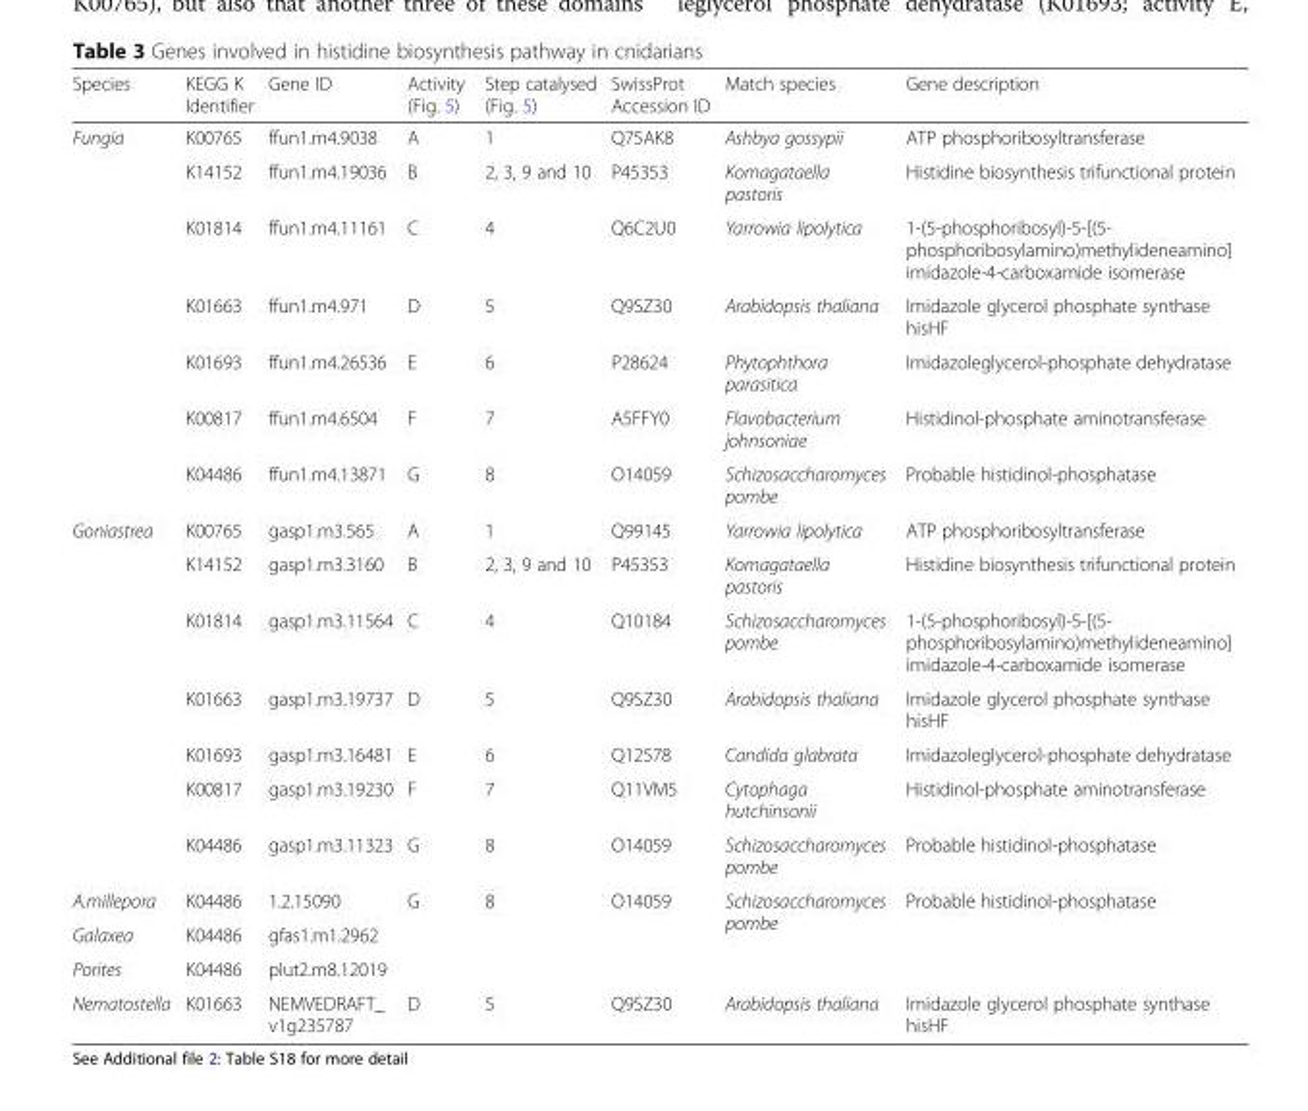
<table><thead><tr><td>Species</td><td>KEGG K Identifier</td><td>Gene ID</td><td>Activity (Fig. 5)</td><td>Step catalysed (Fig. 5)</td><td>SwissProt Accession ID</td><td>Match species</td><td>Gene description</td></tr></thead><tbody><tr><td rowspan="7">Fungia</td><td>K00765</td><td>ffun1.m4.9038</td><td>A</td><td>1</td><td>Q75AK8</td><td>Ashbya gossypii</td><td>ATP phosphoribosyltransferase</td></tr><tr><td>K14152</td><td>ffun1.m4.19036</td><td>B</td><td>2, 3, 9 and 10</td><td>P45353</td><td>Komagataella pastoris</td><td>Histidine biosynthesis trifunctional protein</td></tr><tr><td>K01814</td><td>ffun1.m4.11161</td><td>C</td><td>4</td><td>Q6C2U0</td><td>Yarrowia lipolytica</td><td>1-(5-phosphoribosyl)-5-[(5- phosphoribosylamino)methylideneamino] imidazole-4-carboxamide isomerase</td></tr><tr><td>K01663</td><td>ffun1.m4.971</td><td>D</td><td>5</td><td>Q9SZ30</td><td>Arabidopsis thaliana</td><td>Imidazole glycerol phosphate synthase hisHF</td></tr><tr><td>K01693</td><td>ffun1.m4.26536</td><td>E</td><td>6</td><td>P28624</td><td>Phytophthora parasitica</td><td>Imidazoleglycerol-phosphate dehydratase</td></tr><tr><td>K00817</td><td>ffun1.m4.6504</td><td>F</td><td>7</td><td>A5FFY0</td><td>Flavobacterium johnsoniae</td><td>Histidinol-phosphate aminotransferase</td></tr><tr><td>K04486</td><td>ffun1.m4.13871</td><td>G</td><td>8</td><td>O14059</td><td>Schizosaccharomyces pombe</td><td>Probable histidinol-phosphatase</td></tr><tr><td rowspan="7">Goniastrea</td><td>K00765</td><td>gasp1.m3.565</td><td>A</td><td>1</td><td>Q99145</td><td>Yarrowia lipolytica</td><td>ATP phosphoribosyltransferase</td></tr><tr><td>K14152</td><td>gasp1.m3.3160</td><td>B</td><td>2, 3, 9 and 10</td><td>P45353</td><td>Komagataella pastoris</td><td>Histidine biosynthesis trifunctional protein</td></tr><tr><td>K01814</td><td>gasp1.m3.11564</td><td>C</td><td>4</td><td>Q10184</td><td>Schizosaccharomyces pombe</td><td>1-(5-phosphoribosyl)-5-[(5- phosphoribosylamino)methylideneamino] imidazole-4-carboxamide isomerase</td></tr><tr><td>K01663</td><td>gasp1.m3.19737</td><td>D</td><td>5</td><td>Q9SZ30</td><td>Arabidopsis thaliana</td><td>Imidazole glycerol phosphate synthase hisHF</td></tr><tr><td>K01693</td><td>gasp1.m3.16481</td><td>E</td><td>6</td><td>Q12578</td><td>Candida glabrata</td><td>Imidazoleglycerol-phosphate dehydratase</td></tr><tr><td>K00817</td><td>gasp1.m3.19230</td><td>F</td><td>7</td><td>Q11VM5</td><td>Cytophaga hutchinsonii</td><td>Histidinol-phosphate aminotransferase</td></tr><tr><td>K04486</td><td>gasp1.m3.11323</td><td>G</td><td>8</td><td>O14059</td><td>Schizosaccharomyces pombe</td><td>Probable histidinol-phosphatase</td></tr><tr><td>A.millepora</td><td>K04486</td><td>1.2.15090</td><td rowspan="3">G</td><td rowspan="3">8</td><td rowspan="3">O14059</td><td rowspan="3">Schizosaccharomyces pombe</td><td rowspan="3">Probable histidinol-phosphatase</td></tr><tr><td>Galaxea</td><td>K04486</td><td>gfas1.m1.2962</td></tr><tr><td>Porites</td><td>K04486</td><td>plut2.m8.12019</td></tr><tr><td>Nematostella</td><td>K01663</td><td>NEMVEDRAFT_ v1g235787</td><td>D</td><td>5</td><td>Q9SZ30</td><td>Arabidopsis thaliana</td><td>Imidazole glycerol phosphate synthase hisHF</td></tr></tbody></table>